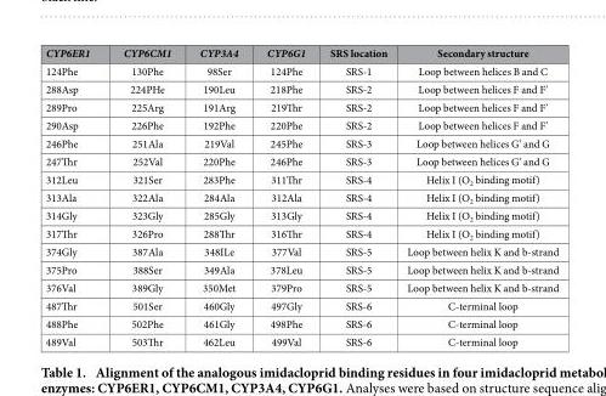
<table><thead><tr><td>CYP6ER1</td><td>CYP6CM1</td><td>CYP3A4</td><td>CYP6G1</td><td>SRS location</td><td>Secondary structure</td></tr></thead><tbody><tr><td>124Phe</td><td>130Phe</td><td>98Ser</td><td>124Phe</td><td>SRS-1</td><td>Loop between helices B and C</td></tr><tr><td>288Asp</td><td>224PHe</td><td>190Leu</td><td>218Phe</td><td>SRS-2</td><td>Loop between helices F and F’</td></tr><tr><td>289Pro</td><td>225Arg</td><td>191Arg</td><td>219Thr</td><td>SRS-2</td><td>Loop between helices F and F’</td></tr><tr><td>290Asp</td><td>226Phe</td><td>192Phe</td><td>220Phe</td><td>SRS-2</td><td>Loop between helices F and F’</td></tr><tr><td>246Phe</td><td>251Ala</td><td>219Val</td><td>245Phe</td><td>SRS-3</td><td>Loop between helices G’ and G</td></tr><tr><td>247Thr</td><td>252Val</td><td>220Phe</td><td>246Phe</td><td>SRS-3</td><td>Loop between helices G’ and G</td></tr><tr><td>312Leu</td><td>321Ser</td><td>283Phe</td><td>311Thr</td><td>SRS-4</td><td>Helix I (O<sub>2</sub> binding motif)</td></tr><tr><td>313Ala</td><td>322Ala</td><td>284Ala</td><td>312Ala</td><td>SRS-4</td><td>Helix I (O<sub>2</sub> binding motif)</td></tr><tr><td>314Gly</td><td>323Gly</td><td>285Gly</td><td>313Gly</td><td>SRS-4</td><td>Helix I (O<sub>2</sub> binding motif)</td></tr><tr><td>317Thr</td><td>326Pro</td><td>288Thr</td><td>316Thr</td><td>SRS-4</td><td>Helix I (O<sub>2</sub> binding motif)</td></tr><tr><td>374Gly</td><td>387Ala</td><td>348ILe</td><td>377Val</td><td>SRS-5</td><td>Loop between helix K and b-strand</td></tr><tr><td>375Pro</td><td>388Ser</td><td>349Ala</td><td>378Leu</td><td>SRS-5</td><td>Loop between helix K and b-strand</td></tr><tr><td>376Val</td><td>389Gly</td><td>350Met</td><td>379Pro</td><td>SRS-5</td><td>Loop between helix K and b-strand</td></tr><tr><td>487Thr</td><td>501Ser</td><td>460Gly</td><td>497Gly</td><td>SRS-6</td><td>C-terminal loop</td></tr><tr><td>488Phe</td><td>502Phe</td><td>461Gly</td><td>498Phe</td><td>SRS-6</td><td>C-terminal loop</td></tr><tr><td>489Val</td><td>503Thr</td><td>462Leu</td><td>499Val</td><td>SRS-6</td><td>C-terminal loop</td></tr></tbody></table>